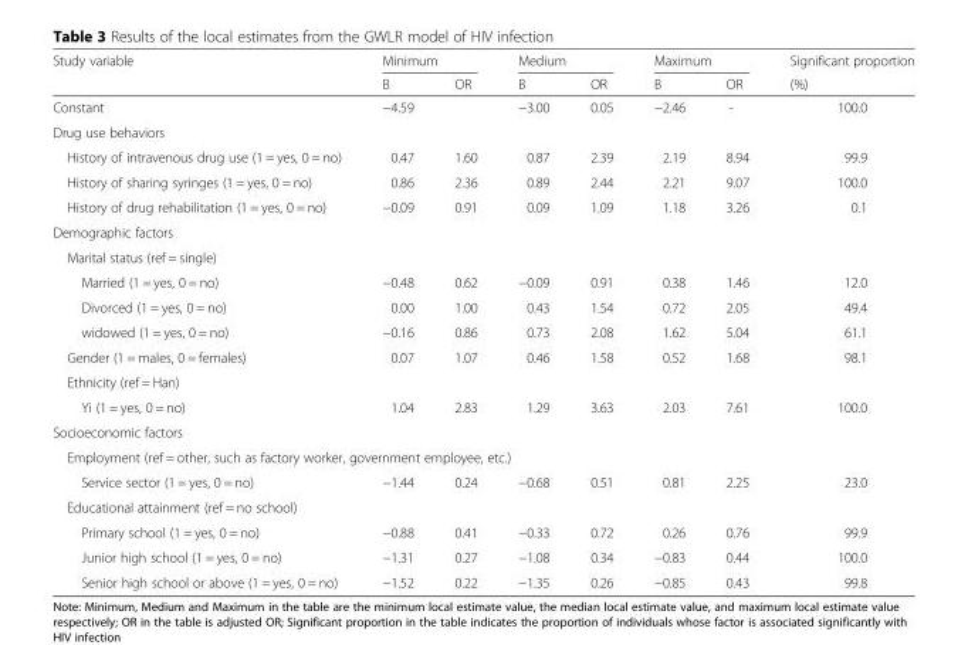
<table><thead><tr><td rowspan="2">Study variable</td><td colspan="2">Minimum</td><td colspan="2">Medium</td><td colspan="2">Maximum</td><td rowspan="2">Significant proportion (%)</td></tr><tr><td>B</td><td>OR</td><td>B</td><td>OR</td><td>B</td><td>OR</td></tr></thead><tbody><tr><td>Constant</td><td>−4.59</td><td></td><td>−3.00</td><td>0.05</td><td>−2.46</td><td>-</td><td>100.0</td></tr><tr><td colspan="8">Drug use behaviors</td></tr><tr><td>History of intravenous drug use (1 = yes, 0 = no)</td><td>0.47</td><td>1.60</td><td>0.87</td><td>2.39</td><td>2.19</td><td>8.94</td><td>99.9</td></tr><tr><td>History of sharing syringes (1 = yes, 0 = no)</td><td>0.86</td><td>2.36</td><td>0.89</td><td>2.44</td><td>2.21</td><td>9.07</td><td>100.0</td></tr><tr><td>History of drug rehabilitation (1 = yes, 0 = no)</td><td>−0.09</td><td>0.91</td><td>0.09</td><td>1.09</td><td>1.18</td><td>3.26</td><td>0.1</td></tr><tr><td colspan="8">Demographic factors</td></tr><tr><td colspan="8">Marital status (ref = single)</td></tr><tr><td>Married (1 = yes, 0 = no)</td><td>−0.48</td><td>0.62</td><td>−0.09</td><td>0.91</td><td>0.38</td><td>1.46</td><td>12.0</td></tr><tr><td>Divorced (1 = yes, 0 = no)</td><td>0.00</td><td>1.00</td><td>0.43</td><td>1.54</td><td>0.72</td><td>2.05</td><td>49.4</td></tr><tr><td>widowed (1 = yes, 0 = no)</td><td>−0.16</td><td>0.86</td><td>0.73</td><td>2.08</td><td>1.62</td><td>5.04</td><td>61.1</td></tr><tr><td>Gender (1 = males, 0 = females)</td><td>0.07</td><td>1.07</td><td>0.46</td><td>1.58</td><td>0.52</td><td>1.68</td><td>98.1</td></tr><tr><td colspan="8">Ethnicity (ref = Han)</td></tr><tr><td>Yi (1 = yes, 0 = no)</td><td>1.04</td><td>2.83</td><td>1.29</td><td>3.63</td><td>2.03</td><td>7.61</td><td>100.0</td></tr><tr><td colspan="8">Socioeconomic factors</td></tr><tr><td colspan="8">Employment (ref = other, such as factory worker, government employee, etc.)</td></tr><tr><td>Service sector (1 = yes, 0 = no)</td><td>−1.44</td><td>0.24</td><td>−0.68</td><td>0.51</td><td>0.81</td><td>2.25</td><td>23.0</td></tr><tr><td colspan="8">Educational attainment (ref = no school)</td></tr><tr><td>Primary school (1 = yes, 0 = no)</td><td>−0.88</td><td>0.41</td><td>−0.33</td><td>0.72</td><td>0.26</td><td>0.76</td><td>99.9</td></tr><tr><td>Junior high school (1 = yes, 0 = no)</td><td>−1.31</td><td>0.27</td><td>−1.08</td><td>0.34</td><td>−0.83</td><td>0.44</td><td>100.0</td></tr><tr><td>Senior high school or above (1 = yes, 0 = no)</td><td>−1.52</td><td>0.22</td><td>−1.35</td><td>0.26</td><td>−0.85</td><td>0.43</td><td>99.8</td></tr></tbody></table>